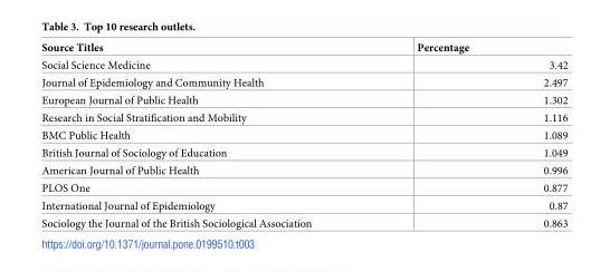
<table><thead><tr><td>Source Titles</td><td>Percentage</td></tr></thead><tbody><tr><td>Social Science Medicine</td><td>3.42</td></tr><tr><td>Journal of Epidemiology and Community Health</td><td>2.497</td></tr><tr><td>European Journal of Public Health</td><td>1.302</td></tr><tr><td>Research in Social Stratification and Mobility</td><td>1.116</td></tr><tr><td>BMC Public Health</td><td>1.089</td></tr><tr><td>British Journal of Sociology of Education</td><td>1.049</td></tr><tr><td>American Journal of Public Health</td><td>0.996</td></tr><tr><td>PLOS One</td><td>0.877</td></tr><tr><td>International Journal of Epidemiology</td><td>0.87</td></tr><tr><td>Sociology the Journal of the British Sociological Association</td><td>0.863</td></tr></tbody></table>